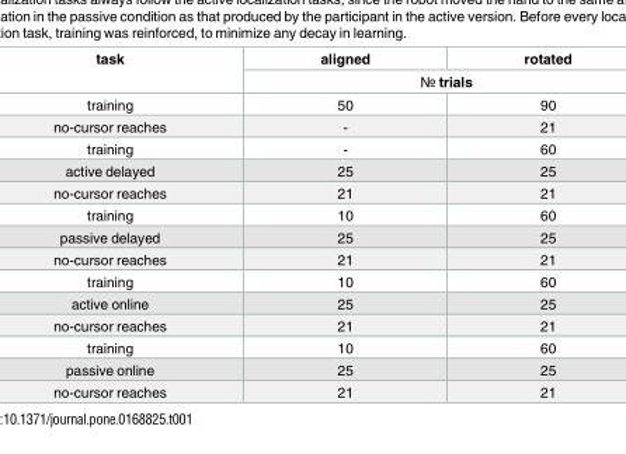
<table><thead><tr><td rowspan="2">task</td><td>aligned</td><td>rotated</td></tr><tr><td colspan="2">№ trials</td></tr></thead><tbody><tr><td>training</td><td>50</td><td>90</td></tr><tr><td>no-cursor reaches</td><td>-</td><td>21</td></tr><tr><td>training</td><td>-</td><td>60</td></tr><tr><td>active delayed</td><td>25</td><td>25</td></tr><tr><td>no-cursor reaches</td><td>21</td><td>21</td></tr><tr><td>training</td><td>10</td><td>60</td></tr><tr><td>passive delayed</td><td>25</td><td>25</td></tr><tr><td>no-cursor reaches</td><td>21</td><td>21</td></tr><tr><td>training</td><td>10</td><td>60</td></tr><tr><td>active online</td><td>25</td><td>25</td></tr><tr><td>no-cursor reaches</td><td>21</td><td>21</td></tr><tr><td>training</td><td>10</td><td>60</td></tr><tr><td>passive online</td><td>25</td><td>25</td></tr><tr><td>no-cursor reaches</td><td>21</td><td>21</td></tr></tbody></table>